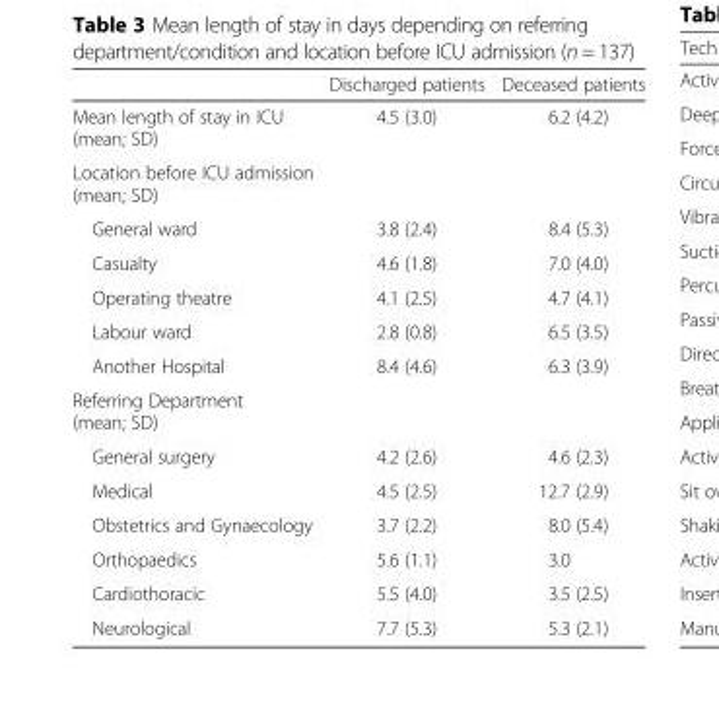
<table><thead><tr><td></td><td>Discharged patients</td><td>Deceased patients</td></tr></thead><tbody><tr><td>Mean length of stay in ICU (mean; SD)</td><td>4.5 (3.0)</td><td>6.2 (4.2)</td></tr><tr><td colspan="3">Location before ICU admission (mean; SD)</td></tr><tr><td>General ward</td><td>3.8 (2.4)</td><td>8.4 (5.3)</td></tr><tr><td>Casualty</td><td>4.6 (1.8)</td><td>7.0 (4.0)</td></tr><tr><td>Operating theatre</td><td>4.1 (2.5)</td><td>4.7 (4.1)</td></tr><tr><td>Labour ward</td><td>2.8 (0.8)</td><td>6.5 (3.5)</td></tr><tr><td>Another Hospital</td><td>8.4 (4.6)</td><td>6.3 (3.9)</td></tr><tr><td colspan="3">Referring Department (mean; SD)</td></tr><tr><td>General surgery</td><td>4.2 (2.6)</td><td>4.6 (2.3)</td></tr><tr><td>Medical</td><td>4.5 (2.5)</td><td>12.7 (2.9)</td></tr><tr><td>Obstetrics and Gynaecology</td><td>3.7 (2.2)</td><td>8.0 (5.4)</td></tr><tr><td>Orthopaedics</td><td>5.6 (1.1)</td><td>3.0</td></tr><tr><td>Cardiothoracic</td><td>5.5 (4.0)</td><td>3.5 (2.5)</td></tr><tr><td>Neurological</td><td>7.7 (5.3)</td><td>5.3 (2.1)</td></tr></tbody></table>